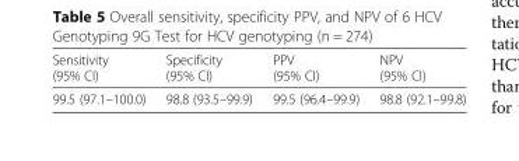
<table><thead><tr><td>Sensitivity (95% CI)</td><td>Specificity (95% CI)</td><td>PPV (95% CI)</td><td>NPV (95% CI)</td></tr></thead><tbody><tr><td>99.5 (97.1–100.0)</td><td>98.8 (93.5–99.9)</td><td>99.5 (96.4–99.9)</td><td>98.8 (92.1–99.8)</td></tr></tbody></table>